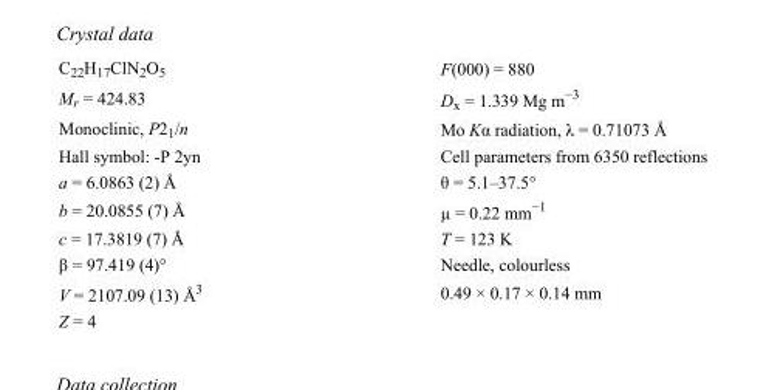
<table><tbody><tr><td>C<sub>22</sub>H<sub>17</sub>ClN<sub>2</sub>O<sub>5</sub></td><td>F(000) = 880</td></tr><tr><td>M<sub>r</sub> = 424.83</td><td>D<sub>x</sub> = 1.339 Mg m<sup>−3</sup></td></tr><tr><td>Monoclinic, P2<sub>1</sub>/n</td><td>Mo Kα radiation, λ = 0.71073 Å</td></tr><tr><td>Hall symbol: -P 2yn</td><td>Cell parameters from 6350 reflections</td></tr><tr><td>a = 6.0863 (2) Å</td><td>θ = 5.1–37.5°</td></tr><tr><td>b = 20.0855 (7) Å</td><td>µ = 0.22 mm<sup>−1</sup></td></tr><tr><td>c = 17.3819 (7) Å</td><td>T = 123 K</td></tr><tr><td>β = 97.419 (4)°</td><td>Needle, colourless</td></tr><tr><td>V = 2107.09 (13) Å<sup>3</sup></td><td>0.49 × 0.17 × 0.14 mm</td></tr><tr><td>Z = 4</td><td></td></tr></tbody></table>